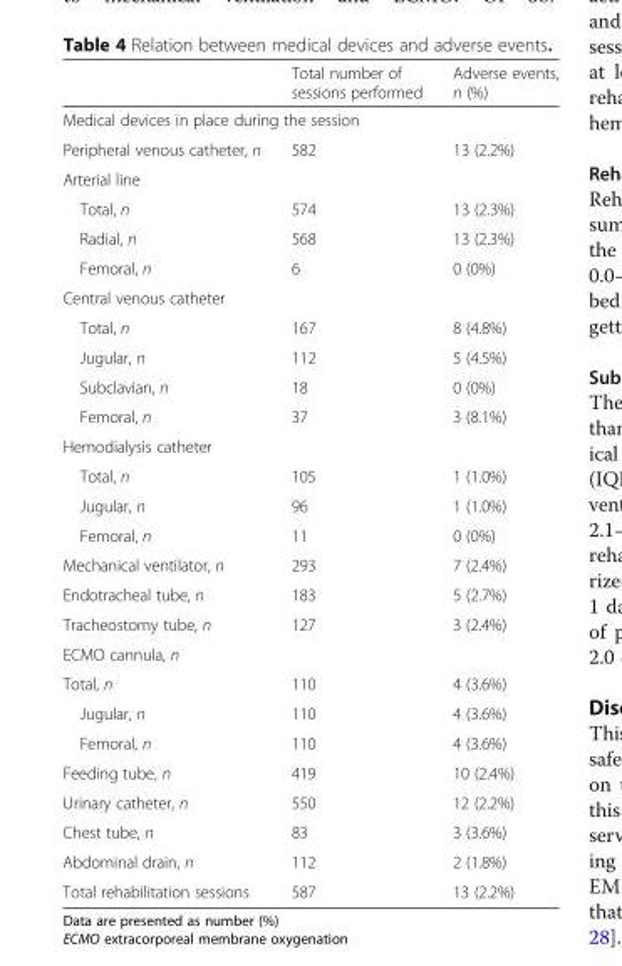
<table><thead><tr><td></td><td>Total number of sessions performed</td><td>Adverse events, n (%)</td></tr></thead><tbody><tr><td colspan="3">Medical devices in place during the session</td></tr><tr><td>Peripheral venous catheter, n</td><td>582</td><td>13 (2.2%)</td></tr><tr><td colspan="3">Arterial line</td></tr><tr><td>Total, n</td><td>574</td><td>13 (2.3%)</td></tr><tr><td>Radial, n</td><td>568</td><td>13 (2.3%)</td></tr><tr><td>Femoral, n</td><td>6</td><td>0 (0%)</td></tr><tr><td colspan="3">Central venous catheter</td></tr><tr><td>Total, n</td><td>167</td><td>8 (4.8%)</td></tr><tr><td>Jugular, n</td><td>112</td><td>5 (4.5%)</td></tr><tr><td>Subclavian, n</td><td>18</td><td>0 (0%)</td></tr><tr><td>Femoral, n</td><td>37</td><td>3 (8.1%)</td></tr><tr><td colspan="3">Hemodialysis catheter</td></tr><tr><td>Total, n</td><td>105</td><td>1 (1.0%)</td></tr><tr><td>Jugular, n</td><td>96</td><td>1 (1.0%)</td></tr><tr><td>Femoral, n</td><td>11</td><td>0 (0%)</td></tr><tr><td>Mechanical ventilator, n</td><td>293</td><td>7 (2.4%)</td></tr><tr><td>Endotracheal tube, n</td><td>183</td><td>5 (2.7%)</td></tr><tr><td>Tracheostomy tube, n</td><td>127</td><td>3 (2.4%)</td></tr><tr><td colspan="3">ECMO cannula, n</td></tr><tr><td>Total, n</td><td>110</td><td>4 (3.6%)</td></tr><tr><td>Jugular, n</td><td>110</td><td>4 (3.6%)</td></tr><tr><td>Femoral, n</td><td>110</td><td>4 (3.6%)</td></tr><tr><td>Feeding tube, n</td><td>419</td><td>10 (2.4%)</td></tr><tr><td>Urinary catheter, n</td><td>550</td><td>12 (2.2%)</td></tr><tr><td>Chest tube, n</td><td>83</td><td>3 (3.6%)</td></tr><tr><td>Abdominal drain, n</td><td>112</td><td>2 (1.8%)</td></tr><tr><td>Total rehabilitation sessions</td><td>587</td><td>13 (2.2%)</td></tr></tbody></table>